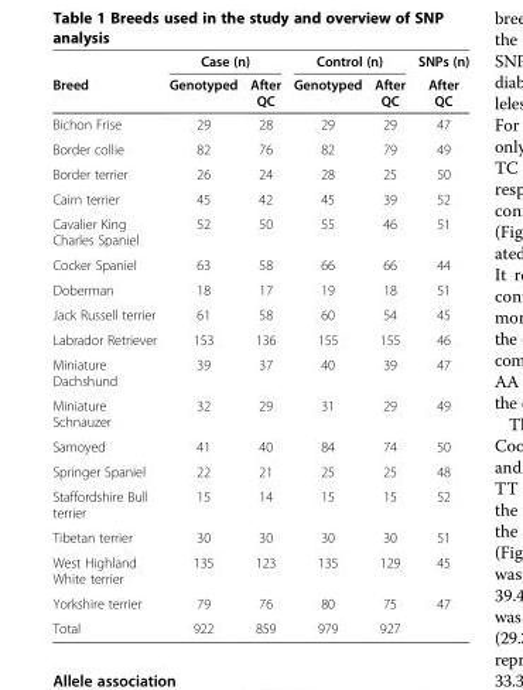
<table><thead><tr><td rowspan="2">Breed</td><td colspan="2">Case (n)</td><td colspan="2">Control (n)</td><td rowspan="2">SNPs (n) After QC</td></tr><tr><td>Genotyped</td><td>After QC</td><td>Genotyped</td><td>After QC</td></tr></thead><tbody><tr><td>Bichon Frise</td><td>29</td><td>28</td><td>29</td><td>29</td><td>47</td></tr><tr><td>Border collie</td><td>82</td><td>76</td><td>82</td><td>79</td><td>49</td></tr><tr><td>Border terrier</td><td>26</td><td>24</td><td>28</td><td>25</td><td>50</td></tr><tr><td>Cairn terrier</td><td>45</td><td>42</td><td>45</td><td>39</td><td>52</td></tr><tr><td>Cavalier King Charles Spaniel</td><td>52</td><td>50</td><td>55</td><td>46</td><td>51</td></tr><tr><td>Cocker Spaniel</td><td>63</td><td>58</td><td>66</td><td>66</td><td>44</td></tr><tr><td>Doberman</td><td>18</td><td>17</td><td>19</td><td>18</td><td>51</td></tr><tr><td>Jack Russell terrier</td><td>61</td><td>58</td><td>60</td><td>54</td><td>45</td></tr><tr><td>Labrador Retriever</td><td>153</td><td>136</td><td>155</td><td>155</td><td>46</td></tr><tr><td>Miniature Dachshund</td><td>39</td><td>37</td><td>40</td><td>39</td><td>47</td></tr><tr><td>Miniature Schnauzer</td><td>32</td><td>29</td><td>31</td><td>29</td><td>49</td></tr><tr><td>Samoyed</td><td>41</td><td>40</td><td>84</td><td>74</td><td>50</td></tr><tr><td>Springer Spaniel</td><td>22</td><td>21</td><td>25</td><td>25</td><td>48</td></tr><tr><td>Staffordshire Bull terrier</td><td>15</td><td>14</td><td>15</td><td>15</td><td>52</td></tr><tr><td>Tibetan terrier</td><td>30</td><td>30</td><td>30</td><td>30</td><td>51</td></tr><tr><td>West Highland White terrier</td><td>135</td><td>123</td><td>135</td><td>129</td><td>45</td></tr><tr><td>Yorkshire terrier</td><td>79</td><td>76</td><td>80</td><td>75</td><td>47</td></tr><tr><td>Total</td><td>922</td><td>859</td><td>979</td><td>927</td><td></td></tr></tbody></table>